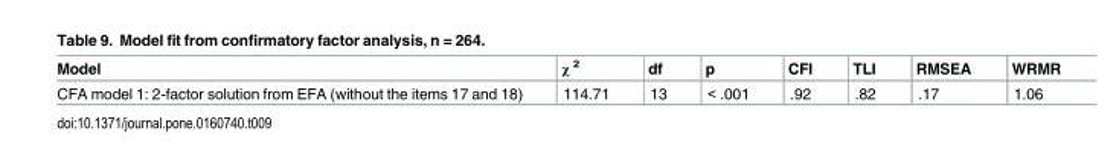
<table><thead><tr><td>Model</td><td>χ <sup>2</sup></td><td>df</td><td>p</td><td>CFI</td><td>TLI</td><td>RMSEA</td><td>WRMR</td></tr></thead><tbody><tr><td>CFA model 1: 2-factor solution from EFA (without the items 17 and 18)</td><td>114.71</td><td>13</td><td>&lt; .001</td><td>.92</td><td>.82</td><td>.17</td><td>1.06</td></tr></tbody></table>